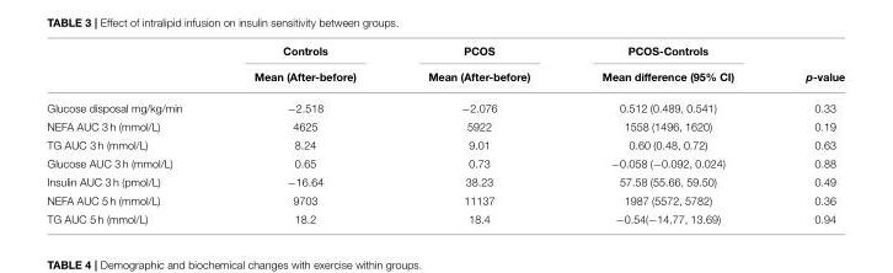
<table><thead><tr><td rowspan="2"></td><td rowspan="2">Controls Mean (After-before)</td><td rowspan="2">PCOS Mean (After-before)</td><td rowspan="2">PCOS-Controls Mean difference (95% CI)</td><td rowspan="2">p-value</td></tr><tr></tr></thead><tbody><tr><td>Glucose disposal mg/kg/min</td><td>−2.518</td><td>−2.076</td><td>0.512 (0.489, 0.541)</td><td>0.33</td></tr><tr><td>NEFA AUC 3 h (mmol/L)</td><td>4625</td><td>5922</td><td>1558 (1496, 1620)</td><td>0.19</td></tr><tr><td>TG AUC 3 h (mmol/L)</td><td>8.24</td><td>9.01</td><td>0.60 (0.48, 0.72)</td><td>0.63</td></tr><tr><td>Glucose AUC 3 h (mmol/L)</td><td>0.65</td><td>0.73</td><td>−0.058 (−0.092, 0.024)</td><td>0.88</td></tr><tr><td>Insulin AUC 3 h (pmol/L)</td><td>−16.64</td><td>38.23</td><td>57.58 (55.66, 59.50)</td><td>0.49</td></tr><tr><td>NEFA AUC 5 h (mmol/L)</td><td>9703</td><td>11137</td><td>1987 (5572, 5782)</td><td>0.36</td></tr><tr><td>TG AUC 5 h (mmol/L)</td><td>18.2</td><td>18.4</td><td>−0.54(−14.77, 13.69)</td><td>0.94</td></tr></tbody></table>